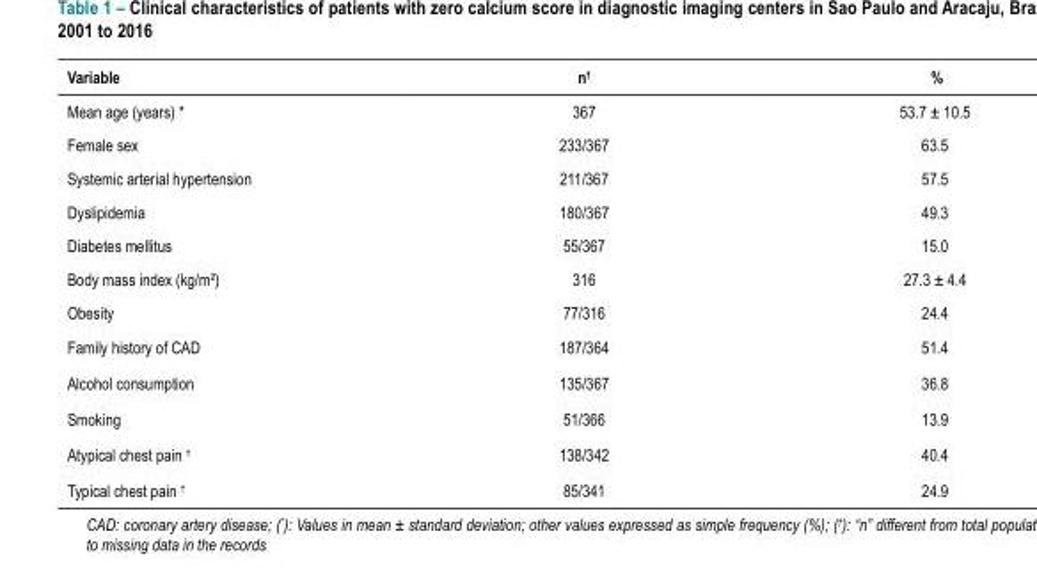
<table><thead><tr><td>Variable</td><td>n<sup>†</sup></td><td>%</td></tr></thead><tbody><tr><td>Mean age (years) *</td><td>367</td><td>53.7 ± 10.5</td></tr><tr><td>Female sex</td><td>233/367</td><td>63.5</td></tr><tr><td>Systemic arterial hypertension</td><td>211/367</td><td>57.5</td></tr><tr><td>Dyslipidemia</td><td>180/367</td><td>49.3</td></tr><tr><td>Diabetes mellitus</td><td>55/367</td><td>15.0</td></tr><tr><td>Body mass index (kg/m²)</td><td>316</td><td>27.3 ± 4.4</td></tr><tr><td>Obesity</td><td>77/316</td><td>24.4</td></tr><tr><td>Family history of CAD</td><td>187/364</td><td>51.4</td></tr><tr><td>Alcohol consumption</td><td>135/367</td><td>36.8</td></tr><tr><td>Smoking</td><td>51/366</td><td>13.9</td></tr><tr><td>Atypical chest pain <sup>†</sup></td><td>138/342</td><td>40.4</td></tr><tr><td>Typical chest pain <sup>†</sup></td><td>85/341</td><td>24.9</td></tr></tbody></table>